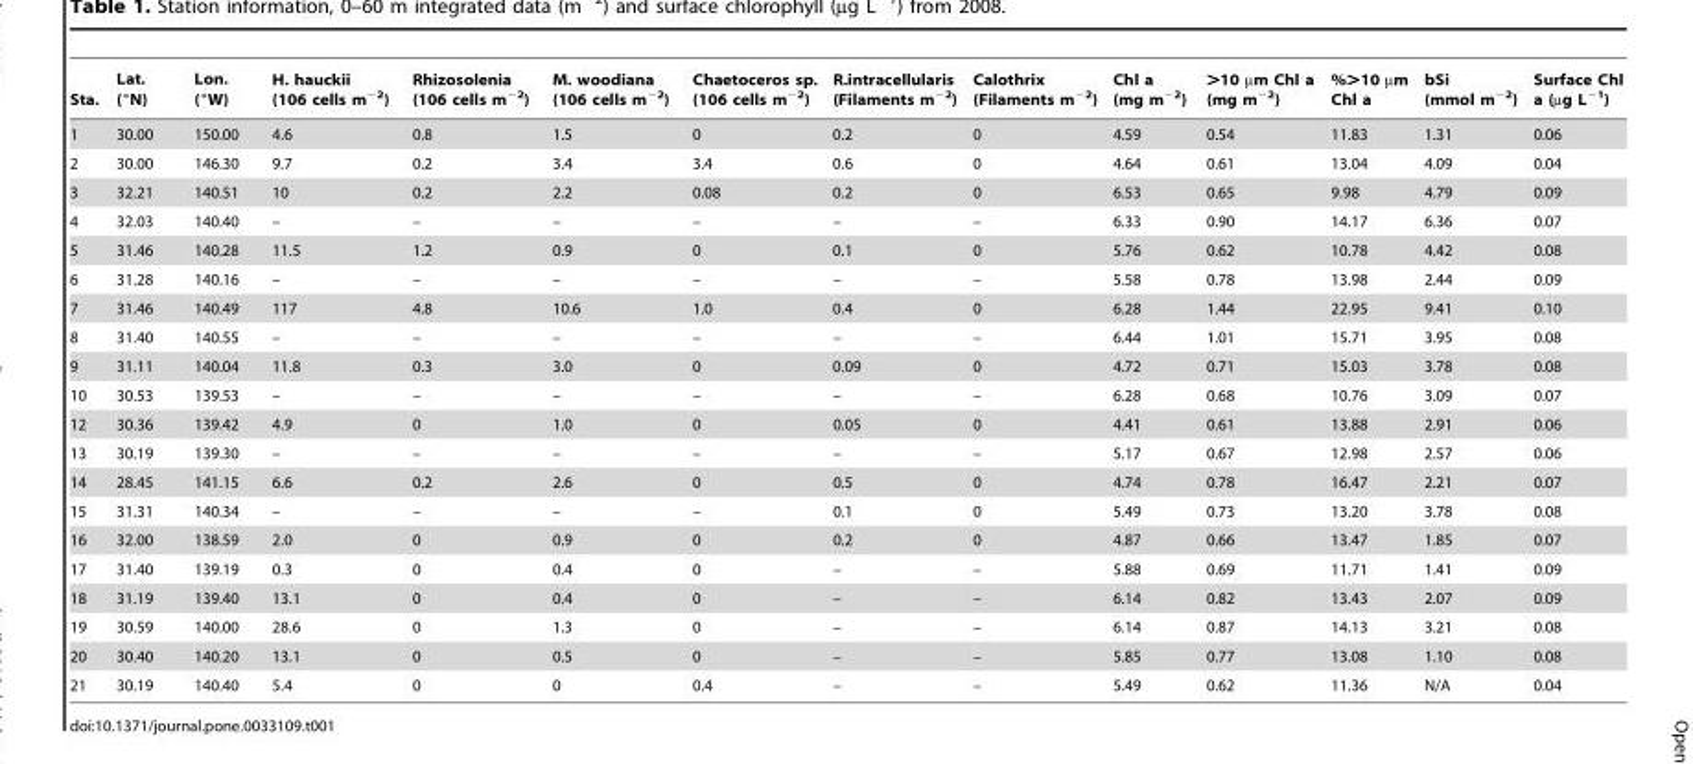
<table><thead><tr><td>Sta.</td><td>Lat. (°N)</td><td>Lon. (°W)</td><td>H. hauckii (106 cells m<sup>−2</sup>)</td><td>Rhizosolenia (106 cells m<sup>−2</sup>)</td><td>M. woodiana (106 cells m<sup>−2</sup>)</td><td>Chaetoceros sp. (106 cells m<sup>−2</sup>)</td><td>R.intracellularis (Filaments m<sup>−2</sup>)</td><td>Calothrix (Filaments m<sup>−2</sup>)</td><td>Chl a (mg m<sup>−2</sup>)</td><td>&gt;10 µm Chl a (mg m<sup>−2</sup>)</td><td>%&gt;10 µm Chl a</td><td>bSi (mmol m<sup>−2</sup>)</td><td>Surface Chl a (µg L<sup>−1</sup>)</td></tr></thead><tbody><tr><td>1</td><td>30.00</td><td>150.00</td><td>4.6</td><td>0.8</td><td>1.5</td><td>0</td><td>0.2</td><td>0</td><td>4.59</td><td>0.54</td><td>11.83</td><td>1.31</td><td>0.06</td></tr><tr><td>2</td><td>30.00</td><td>146.30</td><td>9.7</td><td>0.2</td><td>3.4</td><td>3.4</td><td>0.6</td><td>0</td><td>4.64</td><td>0.61</td><td>13.04</td><td>4.09</td><td>0.04</td></tr><tr><td>3</td><td>32.21</td><td>140.51</td><td>10</td><td>0.2</td><td>2.2</td><td>0.08</td><td>0.2</td><td>0</td><td>6.53</td><td>0.65</td><td>9.98</td><td>4.79</td><td>0.09</td></tr><tr><td>4</td><td>32.03</td><td>140.40</td><td>–</td><td>–</td><td>–</td><td>–</td><td>–</td><td>–</td><td>6.33</td><td>0.90</td><td>14.17</td><td>6.36</td><td>0.07</td></tr><tr><td>5</td><td>31.46</td><td>140.28</td><td>11.5</td><td>1.2</td><td>0.9</td><td>0</td><td>0.1</td><td>0</td><td>5.76</td><td>0.62</td><td>10.78</td><td>4.42</td><td>0.08</td></tr><tr><td>6</td><td>31.28</td><td>140.16</td><td>–</td><td>–</td><td>–</td><td>–</td><td>–</td><td>–</td><td>5.58</td><td>0.78</td><td>13.98</td><td>2.44</td><td>0.09</td></tr><tr><td>7</td><td>31.46</td><td>140.49</td><td>117</td><td>4.8</td><td>10.6</td><td>1.0</td><td>0.4</td><td>0</td><td>6.28</td><td>1.44</td><td>22.95</td><td>9.41</td><td>0.10</td></tr><tr><td>8</td><td>31.40</td><td>140.55</td><td>–</td><td>–</td><td>–</td><td>–</td><td>–</td><td>–</td><td>6.44</td><td>1.01</td><td>15.71</td><td>3.95</td><td>0.08</td></tr><tr><td>9</td><td>31.11</td><td>140.04</td><td>11.8</td><td>0.3</td><td>3.0</td><td>0</td><td>0.09</td><td>0</td><td>4.72</td><td>0.71</td><td>15.03</td><td>3.78</td><td>0.08</td></tr><tr><td>10</td><td>30.53</td><td>139.53</td><td>–</td><td>–</td><td>–</td><td>–</td><td>–</td><td>–</td><td>6.28</td><td>0.68</td><td>10.76</td><td>3.09</td><td>0.07</td></tr><tr><td>12</td><td>30.36</td><td>139.42</td><td>4.9</td><td>0</td><td>1.0</td><td>0</td><td>0.05</td><td>0</td><td>4.41</td><td>0.61</td><td>13.88</td><td>2.91</td><td>0.06</td></tr><tr><td>13</td><td>30.19</td><td>139.30</td><td>–</td><td>–</td><td>–</td><td>–</td><td>–</td><td>–</td><td>5.17</td><td>0.67</td><td>12.98</td><td>2.57</td><td>0.06</td></tr><tr><td>14</td><td>28.45</td><td>141.15</td><td>6.6</td><td>0.2</td><td>2.6</td><td>0</td><td>0.5</td><td>0</td><td>4.74</td><td>0.78</td><td>16.47</td><td>2.21</td><td>0.07</td></tr><tr><td>15</td><td>31.31</td><td>140.34</td><td>–</td><td>–</td><td>–</td><td>–</td><td>0.1</td><td>0</td><td>5.49</td><td>0.73</td><td>13.20</td><td>3.78</td><td>0.08</td></tr><tr><td>16</td><td>32.00</td><td>138.59</td><td>2.0</td><td>0</td><td>0.9</td><td>0</td><td>0.2</td><td>0</td><td>4.87</td><td>0.66</td><td>13.47</td><td>1.85</td><td>0.07</td></tr><tr><td>17</td><td>31.40</td><td>139.19</td><td>0.3</td><td>0</td><td>0.4</td><td>0</td><td>–</td><td>–</td><td>5.88</td><td>0.69</td><td>11.71</td><td>1.41</td><td>0.09</td></tr><tr><td>18</td><td>31.19</td><td>139.40</td><td>13.1</td><td>0</td><td>0.4</td><td>0</td><td>–</td><td>–</td><td>6.14</td><td>0.82</td><td>13.43</td><td>2.07</td><td>0.09</td></tr><tr><td>19</td><td>30.59</td><td>140.00</td><td>28.6</td><td>0</td><td>1.3</td><td>0</td><td>–</td><td>–</td><td>6.14</td><td>0.87</td><td>14.13</td><td>3.21</td><td>0.08</td></tr><tr><td>20</td><td>30.40</td><td>140.20</td><td>13.1</td><td>0</td><td>0.5</td><td>0</td><td>–</td><td>–</td><td>5.85</td><td>0.77</td><td>13.08</td><td>1.10</td><td>0.08</td></tr><tr><td>21</td><td>30.19</td><td>140.40</td><td>5.4</td><td>0</td><td>0</td><td>0.4</td><td>–</td><td>–</td><td>5.49</td><td>0.62</td><td>11.36</td><td>N/A</td><td>0.04</td></tr></tbody></table>